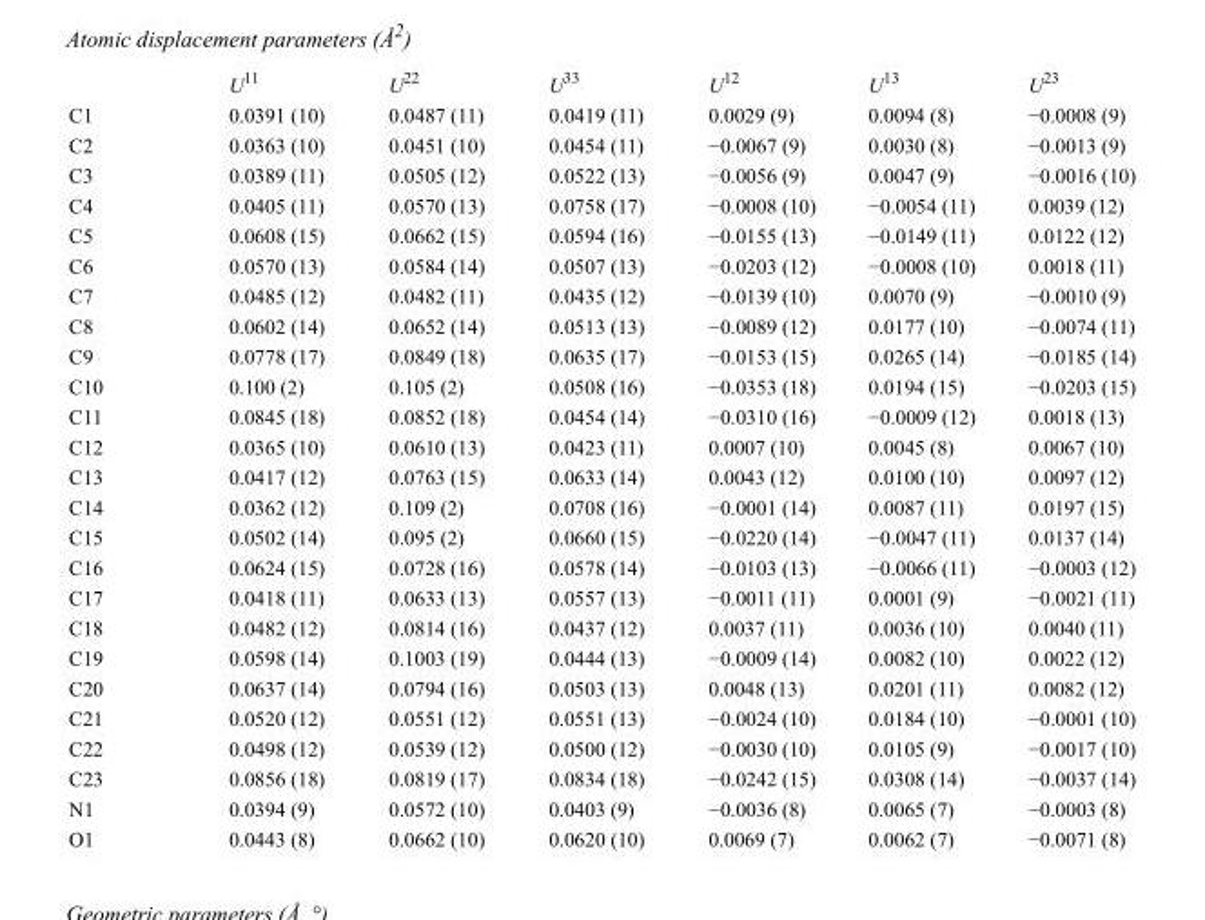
<table><thead><tr><td></td><td>U<sup>11</sup></td><td>U<sup>22</sup></td><td>U<sup>33</sup></td><td>U<sup>12</sup></td><td>U<sup>13</sup></td><td>U<sup>23</sup></td></tr></thead><tbody><tr><td>C1</td><td>0.0391 (10)</td><td>0.0487 (11)</td><td>0.0419 (11)</td><td>0.0029 (9)</td><td>0.0094 (8)</td><td>−0.0008 (9)</td></tr><tr><td>C2</td><td>0.0363 (10)</td><td>0.0451 (10)</td><td>0.0454 (11)</td><td>−0.0067 (9)</td><td>0.0030 (8)</td><td>−0.0013 (9)</td></tr><tr><td>C3</td><td>0.0389 (11)</td><td>0.0505 (12)</td><td>0.0522 (13)</td><td>−0.0056 (9)</td><td>0.0047 (9)</td><td>−0.0016 (10)</td></tr><tr><td>C4</td><td>0.0405 (11)</td><td>0.0570 (13)</td><td>0.0758 (17)</td><td>−0.0008 (10)</td><td>−0.0054 (11)</td><td>0.0039 (12)</td></tr><tr><td>C5</td><td>0.0608 (15)</td><td>0.0662 (15)</td><td>0.0594 (16)</td><td>−0.0155 (13)</td><td>−0.0149 (11)</td><td>0.0122 (12)</td></tr><tr><td>C6</td><td>0.0570 (13)</td><td>0.0584 (14)</td><td>0.0507 (13)</td><td>−0.0203 (12)</td><td>−0.0008 (10)</td><td>0.0018 (11)</td></tr><tr><td>C7</td><td>0.0485 (12)</td><td>0.0482 (11)</td><td>0.0435 (12)</td><td>−0.0139 (10)</td><td>0.0070 (9)</td><td>−0.0010 (9)</td></tr><tr><td>C8</td><td>0.0602 (14)</td><td>0.0652 (14)</td><td>0.0513 (13)</td><td>−0.0089 (12)</td><td>0.0177 (10)</td><td>−0.0074 (11)</td></tr><tr><td>C9</td><td>0.0778 (17)</td><td>0.0849 (18)</td><td>0.0635 (17)</td><td>−0.0153 (15)</td><td>0.0265 (14)</td><td>−0.0185 (14)</td></tr><tr><td>C10</td><td>0.100 (2)</td><td>0.105 (2)</td><td>0.0508 (16)</td><td>−0.0353 (18)</td><td>0.0194 (15)</td><td>−0.0203 (15)</td></tr><tr><td>C11</td><td>0.0845 (18)</td><td>0.0852 (18)</td><td>0.0454 (14)</td><td>−0.0310 (16)</td><td>−0.0009 (12)</td><td>0.0018 (13)</td></tr><tr><td>C12</td><td>0.0365 (10)</td><td>0.0610 (13)</td><td>0.0423 (11)</td><td>0.0007 (10)</td><td>0.0045 (8)</td><td>0.0067 (10)</td></tr><tr><td>C13</td><td>0.0417 (12)</td><td>0.0763 (15)</td><td>0.0633 (14)</td><td>0.0043 (12)</td><td>0.0100 (10)</td><td>0.0097 (12)</td></tr><tr><td>C14</td><td>0.0362 (12)</td><td>0.109 (2)</td><td>0.0708 (16)</td><td>−0.0001 (14)</td><td>0.0087 (11)</td><td>0.0197 (15)</td></tr><tr><td>C15</td><td>0.0502 (14)</td><td>0.095 (2)</td><td>0.0660 (15)</td><td>−0.0220 (14)</td><td>−0.0047 (11)</td><td>0.0137 (14)</td></tr><tr><td>C16</td><td>0.0624 (15)</td><td>0.0728 (16)</td><td>0.0578 (14)</td><td>−0.0103 (13)</td><td>−0.0066 (11)</td><td>−0.0003 (12)</td></tr><tr><td>C17</td><td>0.0418 (11)</td><td>0.0633 (13)</td><td>0.0557 (13)</td><td>−0.0011 (11)</td><td>0.0001 (9)</td><td>−0.0021 (11)</td></tr><tr><td>C18</td><td>0.0482 (12)</td><td>0.0814 (16)</td><td>0.0437 (12)</td><td>0.0037 (11)</td><td>0.0036 (10)</td><td>0.0040 (11)</td></tr><tr><td>C19</td><td>0.0598 (14)</td><td>0.1003 (19)</td><td>0.0444 (13)</td><td>−0.0009 (14)</td><td>0.0082 (10)</td><td>0.0022 (12)</td></tr><tr><td>C20</td><td>0.0637 (14)</td><td>0.0794 (16)</td><td>0.0503 (13)</td><td>0.0048 (13)</td><td>0.0201 (11)</td><td>0.0082 (12)</td></tr><tr><td>C21</td><td>0.0520 (12)</td><td>0.0551 (12)</td><td>0.0551 (13)</td><td>−0.0024 (10)</td><td>0.0184 (10)</td><td>−0.0001 (10)</td></tr><tr><td>C22</td><td>0.0498 (12)</td><td>0.0539 (12)</td><td>0.0500 (12)</td><td>−0.0030 (10)</td><td>0.0105 (9)</td><td>−0.0017 (10)</td></tr><tr><td>C23</td><td>0.0856 (18)</td><td>0.0819 (17)</td><td>0.0834 (18)</td><td>−0.0242 (15)</td><td>0.0308 (14)</td><td>−0.0037 (14)</td></tr><tr><td>N1</td><td>0.0394 (9)</td><td>0.0572 (10)</td><td>0.0403 (9)</td><td>−0.0036 (8)</td><td>0.0065 (7)</td><td>−0.0003 (8)</td></tr><tr><td>O1</td><td>0.0443 (8)</td><td>0.0662 (10)</td><td>0.0620 (10)</td><td>0.0069 (7)</td><td>0.0062 (7)</td><td>−0.0071 (8)</td></tr></tbody></table>